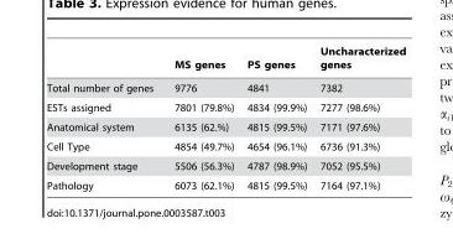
<table><thead><tr><td></td><td>MS genes</td><td>PS genes</td><td>Uncharacterized genes</td></tr></thead><tbody><tr><td>Total number of genes</td><td>9776</td><td>4841</td><td>7382</td></tr><tr><td>ESTs assigned</td><td>7801 (79.8%)</td><td>4834 (99.9%)</td><td>7277 (98.6%)</td></tr><tr><td>Anatomical system</td><td>6135 (62.%)</td><td>4815 (99.5%)</td><td>7171 (97.6%)</td></tr><tr><td>Cell Type</td><td>4854 (49.7%)</td><td>4654 (96.1%)</td><td>6736 (91.3%)</td></tr><tr><td>Development stage</td><td>5506 (56.3%)</td><td>4787 (98.9%)</td><td>7052 (95.5%)</td></tr><tr><td>Pathology</td><td>6073 (62.1%)</td><td>4815 (99.5%)</td><td>7164 (97.1%)</td></tr></tbody></table>